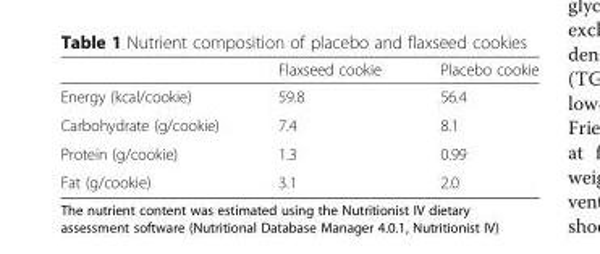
<table><thead><tr><td></td><td>Flaxseed cookie</td><td>Placebo cookie</td></tr></thead><tbody><tr><td>Energy (kcal/cookie)</td><td>59.8</td><td>56.4</td></tr><tr><td>Carbohydrate (g/cookie)</td><td>7.4</td><td>8.1</td></tr><tr><td>Protein (g/cookie)</td><td>1.3</td><td>0.99</td></tr><tr><td>Fat (g/cookie)</td><td>3.1</td><td>2.0</td></tr></tbody></table>